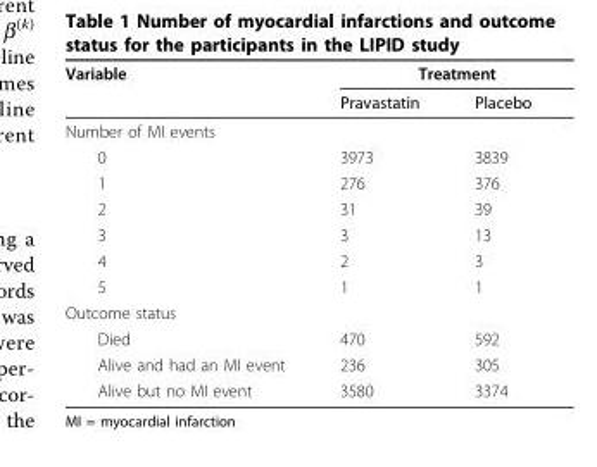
<table><thead><tr><td rowspan="2">Variable</td><td colspan="2">Treatment</td></tr><tr><td>Pravastatin</td><td>Placebo</td></tr></thead><tbody><tr><td colspan="3">Number of MI events</td></tr><tr><td>0</td><td>3973</td><td>3839</td></tr><tr><td>1</td><td>276</td><td>376</td></tr><tr><td>2</td><td>31</td><td>39</td></tr><tr><td>3</td><td>3</td><td>13</td></tr><tr><td>4</td><td>2</td><td>3</td></tr><tr><td>5</td><td>1</td><td>1</td></tr><tr><td colspan="3">Outcome status</td></tr><tr><td>Died</td><td>470</td><td>592</td></tr><tr><td>Alive and had an MI event</td><td>236</td><td>305</td></tr><tr><td>Alive but no MI event</td><td>3580</td><td>3374</td></tr></tbody></table>